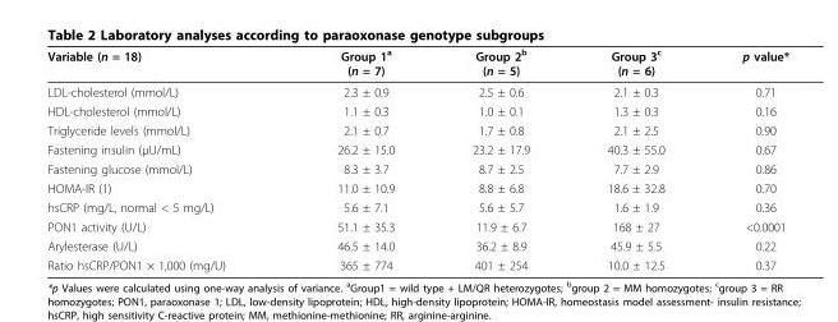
<table><thead><tr><td>Variable (n = 18)</td><td>Group 1<sup>a</sup> (n = 7)</td><td>Group 2<sup>b</sup> (n = 5)</td><td>Group 3<sup>c</sup> (n = 6)</td><td>p value*</td></tr></thead><tbody><tr><td>LDL-cholesterol (mmol/L)</td><td>2.3 ± 0.9</td><td>2.5 ± 0.6</td><td>2.1 ± 0.3</td><td>0.71</td></tr><tr><td>HDL-cholesterol (mmol/L)</td><td>1.1 ± 0.3</td><td>1.0 ± 0.1</td><td>1.3 ± 0.3</td><td>0.16</td></tr><tr><td>Triglyceride levels (mmol/L)</td><td>2.1 ± 0.7</td><td>1.7 ± 0.8</td><td>2.1 ± 2.5</td><td>0.90</td></tr><tr><td>Fastening insulin (μU/mL)</td><td>26.2 ± 15.0</td><td>23.2 ± 17.9</td><td>40.3 ± 55.0</td><td>0.67</td></tr><tr><td>Fastening glucose (mmol/L)</td><td>8.3 ± 3.7</td><td>8.7 ± 2.5</td><td>7.7 ± 2.9</td><td>0.86</td></tr><tr><td>HOMA-IR (1)</td><td>11.0 ± 10.9</td><td>8.8 ± 6.8</td><td>18.6 ± 32.8</td><td>0.70</td></tr><tr><td>hsCRP (mg/L, normal &lt; 5 mg/L)</td><td>5.6 ± 7.1</td><td>5.6 ± 5.7</td><td>1.6 ± 1.9</td><td>0.36</td></tr><tr><td>PON1 activity (U/L)</td><td>51.1 ± 35.3</td><td>11.9 ± 6.7</td><td>168 ± 27</td><td>&lt;0.0001</td></tr><tr><td>Arylesterase (U/L)</td><td>46.5 ± 14.0</td><td>36.2 ± 8.9</td><td>45.9 ± 5.5</td><td>0.22</td></tr><tr><td>Ratio hsCRP/PON1 × 1,000 (mg/U)</td><td>365 ± 774</td><td>401 ± 254</td><td>10.0 ± 12.5</td><td>0.37</td></tr></tbody></table>